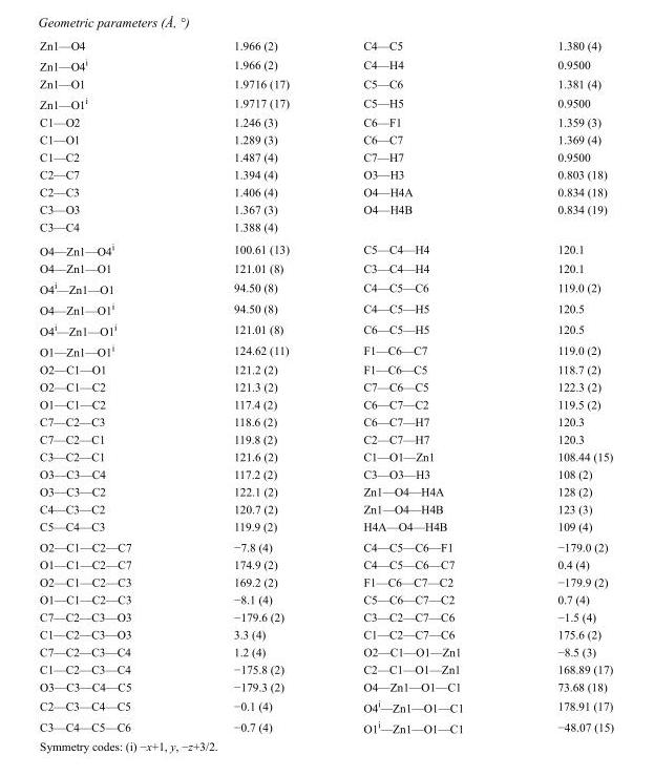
<table><tbody><tr><td>Zn1—O4</td><td>1.966 (2)</td><td>C4—C5</td><td>1.380 (4)</td></tr><tr><td>Zn1—O4<sup>i</sup></td><td>1.966 (2)</td><td>C4—H4</td><td>0.9500</td></tr><tr><td>Zn1—O1</td><td>1.9716 (17)</td><td>C5—C6</td><td>1.381 (4)</td></tr><tr><td>Zn1—O1<sup>i</sup></td><td>1.9717 (17)</td><td>C5—H5</td><td>0.9500</td></tr><tr><td>C1—O2</td><td>1.246 (3)</td><td>C6—F1</td><td>1.359 (3)</td></tr><tr><td>C1—O1</td><td>1.289 (3)</td><td>C6—C7</td><td>1.369 (4)</td></tr><tr><td>C1—C2</td><td>1.487 (4)</td><td>C7—H7</td><td>0.9500</td></tr><tr><td>C2—C7</td><td>1.394 (4)</td><td>O3—H3</td><td>0.803 (18)</td></tr><tr><td>C2—C3</td><td>1.406 (4)</td><td>O4—H4A</td><td>0.834 (18)</td></tr><tr><td>C3—O3</td><td>1.367 (3)</td><td>O4—H4B</td><td>0.834 (19)</td></tr><tr><td>C3—C4</td><td>1.388 (4)</td><td></td><td></td></tr><tr><td>O4—Zn1—O4<sup>i</sup></td><td>100.61 (13)</td><td>C5—C4—H4</td><td>120.1</td></tr><tr><td>O4—Zn1—O1</td><td>121.01 (8)</td><td>C3—C4—H4</td><td>120.1</td></tr><tr><td>O4<sup>i</sup>—Zn1—O1</td><td>94.50 (8)</td><td>C4—C5—C6</td><td>119.0 (2)</td></tr><tr><td>O4—Zn1—O1<sup>i</sup></td><td>94.50 (8)</td><td>C4—C5—H5</td><td>120.5</td></tr><tr><td>O4<sup>i</sup>—Zn1—O1<sup>i</sup></td><td>121.01 (8)</td><td>C6—C5—H5</td><td>120.5</td></tr><tr><td>O1—Zn1—O1<sup>i</sup></td><td>124.62 (11)</td><td>F1—C6—C7</td><td>119.0 (2)</td></tr><tr><td>O2—C1—O1</td><td>121.2 (2)</td><td>F1—C6—C5</td><td>118.7 (2)</td></tr><tr><td>O2—C1—C2</td><td>121.3 (2)</td><td>C7—C6—C5</td><td>122.3 (2)</td></tr><tr><td>O1—C1—C2</td><td>117.4 (2)</td><td>C6—C7—C2</td><td>119.5 (2)</td></tr><tr><td>C7—C2—C3</td><td>118.6 (2)</td><td>C6—C7—H7</td><td>120.3</td></tr><tr><td>C7—C2—C1</td><td>119.8 (2)</td><td>C2—C7—H7</td><td>120.3</td></tr><tr><td>C3—C2—C1</td><td>121.6 (2)</td><td>C1—O1—Zn1</td><td>108.44 (15)</td></tr><tr><td>O3—C3—C4</td><td>117.2 (2)</td><td>C3—O3—H3</td><td>108 (2)</td></tr><tr><td>O3—C3—C2</td><td>122.1 (2)</td><td>Zn1—O4—H4A</td><td>128 (2)</td></tr><tr><td>C4—C3—C2</td><td>120.7 (2)</td><td>Zn1—O4—H4B</td><td>123 (3)</td></tr><tr><td>C5—C4—C3</td><td>119.9 (2)</td><td>H4A—O4—H4B</td><td>109 (4)</td></tr><tr><td>O2—C1—C2—C7</td><td>−7.8 (4)</td><td>C4—C5—C6—F1</td><td>−179.0 (2)</td></tr><tr><td>O1—C1—C2—C7</td><td>174.9 (2)</td><td>C4—C5—C6—C7</td><td>0.4 (4)</td></tr><tr><td>O2—C1—C2—C3</td><td>169.2 (2)</td><td>F1—C6—C7—C2</td><td>−179.9 (2)</td></tr><tr><td>O1—C1—C2—C3</td><td>−8.1 (4)</td><td>C5—C6—C7—C2</td><td>0.7 (4)</td></tr><tr><td>C7—C2—C3—O3</td><td>−179.6 (2)</td><td>C3—C2—C7—C6</td><td>−1.5 (4)</td></tr><tr><td>C1—C2—C3—O3</td><td>3.3 (4)</td><td>C1—C2—C7—C6</td><td>175.6 (2)</td></tr><tr><td>C7—C2—C3—C4</td><td>1.2 (4)</td><td>O2—C1—O1—Zn1</td><td>−8.5 (3)</td></tr><tr><td>C1—C2—C3—C4</td><td>−175.8 (2)</td><td>C2—C1—O1—Zn1</td><td>168.89 (17)</td></tr><tr><td>O3—C3—C4—C5</td><td>−179.3 (2)</td><td>O4—Zn1—O1—C1</td><td>73.68 (18)</td></tr><tr><td>C2—C3—C4—C5</td><td>−0.1 (4)</td><td>O4<sup>i</sup>—Zn1—O1—C1</td><td>178.91 (17)</td></tr><tr><td>C3—C4—C5—C6</td><td>−0.7 (4)</td><td>O1<sup>i</sup>—Zn1—O1—C1</td><td>−48.07 (15)</td></tr></tbody></table>